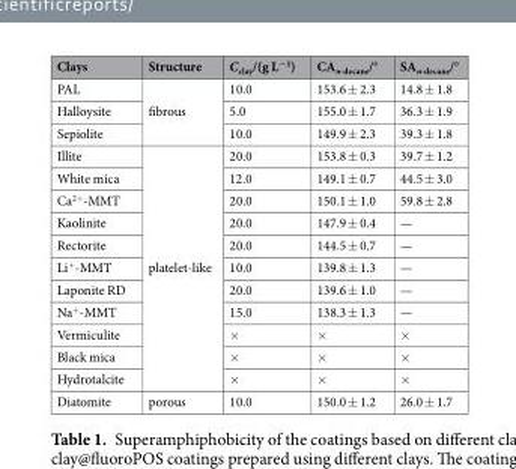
<table><thead><tr><td>Clays</td><td>Structure</td><td>C<sub>clay</sub>/(g L<sup>−1</sup>)</td><td>CA<sub>n-decane</sub>/°</td><td>SA<sub>n-decane</sub>/°</td></tr></thead><tbody><tr><td>PAL</td><td rowspan="3">fibrous</td><td>10.0</td><td>153.6 ± 2.3</td><td>14.8 ± 1.8</td></tr><tr><td>Halloysite</td><td>5.0</td><td>155.0 ± 1.7</td><td>36.3 ± 1.9</td></tr><tr><td>Sepiolite</td><td>10.0</td><td>149.9 ± 2.3</td><td>39.3 ± 1.8</td></tr><tr><td>Illite</td><td rowspan="11">platelet-like</td><td>20.0</td><td>153.8 ± 0.3</td><td>39.7 ± 1.2</td></tr><tr><td>White mica</td><td>12.0</td><td>149.1 ± 0.7</td><td>44.5 ± 3.0</td></tr><tr><td>Ca<sup>2+</sup>-MMT</td><td>20.0</td><td>150.1 ± 1.0</td><td>59.8 ± 2.8</td></tr><tr><td>Kaolinite</td><td>20.0</td><td>147.9 ± 0.4</td><td>—</td></tr><tr><td>Rectorite</td><td>20.0</td><td>144.5 ± 0.7</td><td>—</td></tr><tr><td>Li<sup>+</sup>-MMT</td><td>10.0</td><td>139.8 ± 1.3</td><td>—</td></tr><tr><td>Laponite RD</td><td>20.0</td><td>139.6 ± 1.0</td><td>—</td></tr><tr><td>Na<sup>+</sup>-MMT</td><td>15.0</td><td>138.3 ± 1.3</td><td>—</td></tr><tr><td>Vermiculite</td><td>×</td><td>×</td><td>×</td></tr><tr><td>Black mica</td><td>×</td><td>×</td><td>×</td></tr><tr><td>Hydrotalcite</td><td>×</td><td>×</td><td>×</td></tr><tr><td>Diatomite</td><td>porous</td><td>10.0</td><td>150.0 ± 1.2</td><td>26.0 ± 1.7</td></tr></tbody></table>